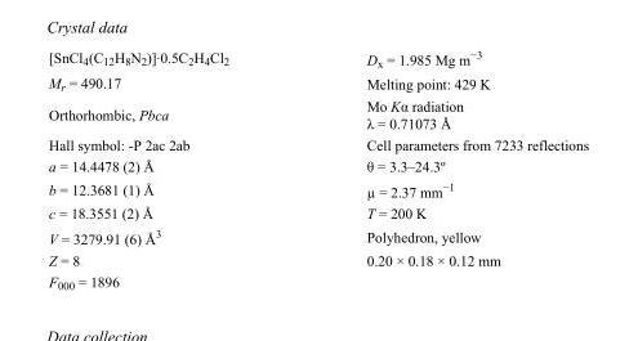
<table><tbody><tr><td>[SnCl<sub>4</sub>(C<sub>12</sub>H<sub>8</sub>N<sub>2</sub>)]·0.5C<sub>2</sub>H<sub>4</sub>Cl<sub>2</sub></td><td>D<sub>x</sub> = 1.985 Mg m<sup>−3</sup></td></tr><tr><td>M<sub>r</sub> = 490.17</td><td>Melting point: 429 K</td></tr><tr><td>Orthorhombic, Pbca</td><td>Mo Kα radiation λ = 0.71073 Å</td></tr><tr><td>Hall symbol: -P 2ac 2ab</td><td>Cell parameters from 7233 reflections</td></tr><tr><td>a = 14.4478 (2) Å</td><td>θ = 3.3–24.3º</td></tr><tr><td>b = 12.3681 (1) Å</td><td>µ = 2.37 mm<sup>−1</sup></td></tr><tr><td>c = 18.3551 (2) Å</td><td>T = 200 K</td></tr><tr><td>V = 3279.91 (6) Å<sup>3</sup></td><td>Polyhedron, yellow</td></tr><tr><td>Z = 8</td><td>0.20 × 0.18 × 0.12 mm</td></tr><tr><td>F000 = 1896</td><td></td></tr></tbody></table>